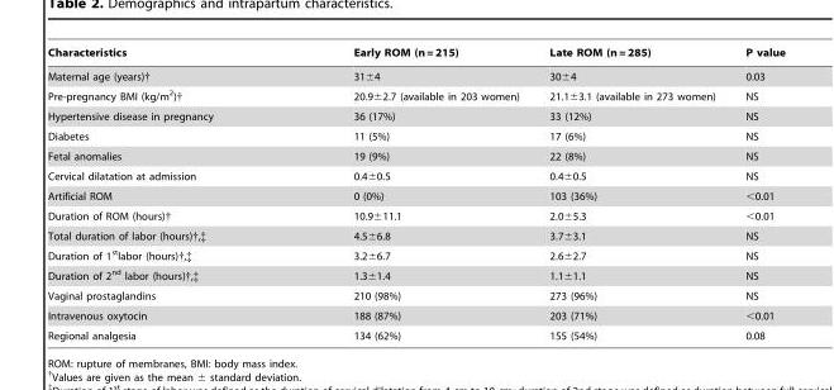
<table><thead><tr><td>Characteristics</td><td>Early ROM (n = 215)</td><td>Late ROM (n = 285)</td><td>P value</td></tr></thead><tbody><tr><td>Maternal age (years)†</td><td>31±4</td><td>30±4</td><td>0.03</td></tr><tr><td>Pre-pregnancy BMI (kg/m<sup>2</sup>)†</td><td>20.9±2.7 (available in 203 women)</td><td>21.1±3.1 (available in 273 women)</td><td>NS</td></tr><tr><td>Hypertensive disease in pregnancy</td><td>36 (17%)</td><td>33 (12%)</td><td>NS</td></tr><tr><td>Diabetes</td><td>11 (5%)</td><td>17 (6%)</td><td>NS</td></tr><tr><td>Fetal anomalies</td><td>19 (9%)</td><td>22 (8%)</td><td>NS</td></tr><tr><td>Cervical dilatation at admission</td><td>0.4±0.5</td><td>0.4±0.5</td><td>NS</td></tr><tr><td>Artificial ROM</td><td>0 (0%)</td><td>103 (36%)</td><td>&lt;0.01</td></tr><tr><td>Duration of ROM (hours)†</td><td>10.9±11.1</td><td>2.0±5.3</td><td>&lt;0.01</td></tr><tr><td>Total duration of labor (hours)†,‡</td><td>4.5±6.8</td><td>3.7±3.1</td><td>NS</td></tr><tr><td>Duration of 1<sup>st</sup>labor (hours)†,‡</td><td>3.2±6.7</td><td>2.6±2.7</td><td>NS</td></tr><tr><td>Duration of 2<sup>nd</sup> labor (hours)†,‡</td><td>1.3±1.4</td><td>1.1±1.1</td><td>NS</td></tr><tr><td>Vaginal prostaglandins</td><td>210 (98%)</td><td>273 (96%)</td><td>NS</td></tr><tr><td>Intravenous oxytocin</td><td>188 (87%)</td><td>203 (71%)</td><td>&lt;0.01</td></tr><tr><td>Regional analgesia</td><td>134 (62%)</td><td>155 (54%)</td><td>0.08</td></tr></tbody></table>